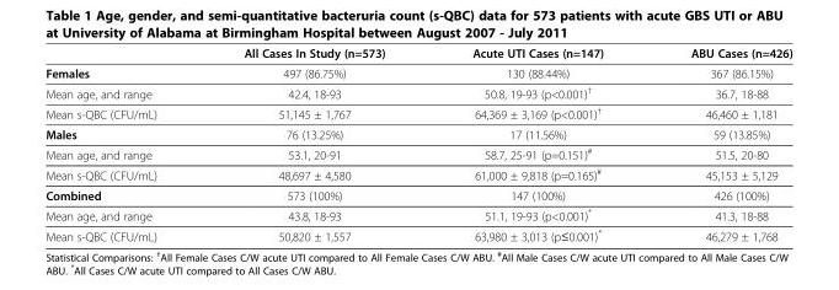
<table><thead><tr><td></td><td>All Cases In Study (n=573)</td><td>Acute UTI Cases (n=147)</td><td>ABU Cases (n=426)</td></tr></thead><tbody><tr><td>Females</td><td>497 (86.75%)</td><td>130 (88.44%)</td><td>367 (86.15%)</td></tr><tr><td>Mean age, and range</td><td>42.4, 18-93</td><td>50.8, 19-93 (p&lt;0.001)<sup>†</sup></td><td>36.7, 18-88</td></tr><tr><td>Mean s-QBC (CFU/mL)</td><td>51,145 ± 1,767</td><td>64,369 ± 3,169 (p&lt;0.001)<sup>†</sup></td><td>46,460 ± 1,181</td></tr><tr><td>Males</td><td>76 (13.25%)</td><td>17 (11.56%)</td><td>59 (13.85%)</td></tr><tr><td>Mean age, and range</td><td>53.1, 20-91</td><td>58.7, 25-91 (p=0.151)<sup>#</sup></td><td>51.5, 20-80</td></tr><tr><td>Mean s-QBC (CFU/mL)</td><td>48,697 ± 4,580</td><td>61,000 ± 9,818 (p=0.165)<sup>#</sup></td><td>45,153 ± 5,129</td></tr><tr><td>Combined</td><td>573 (100%)</td><td>147 (100%)</td><td>426 (100%)</td></tr><tr><td>Mean age, and range</td><td>43.8, 18-93</td><td>51.1, 19-93 (p&lt;0.001)*</td><td>41.3, 18-88</td></tr><tr><td>Mean s-QBC (CFU/mL)</td><td>50,820 ± 1,557</td><td>63,980 ± 3,013 (p≤0.001)*</td><td>46,279 ± 1,768</td></tr></tbody></table>